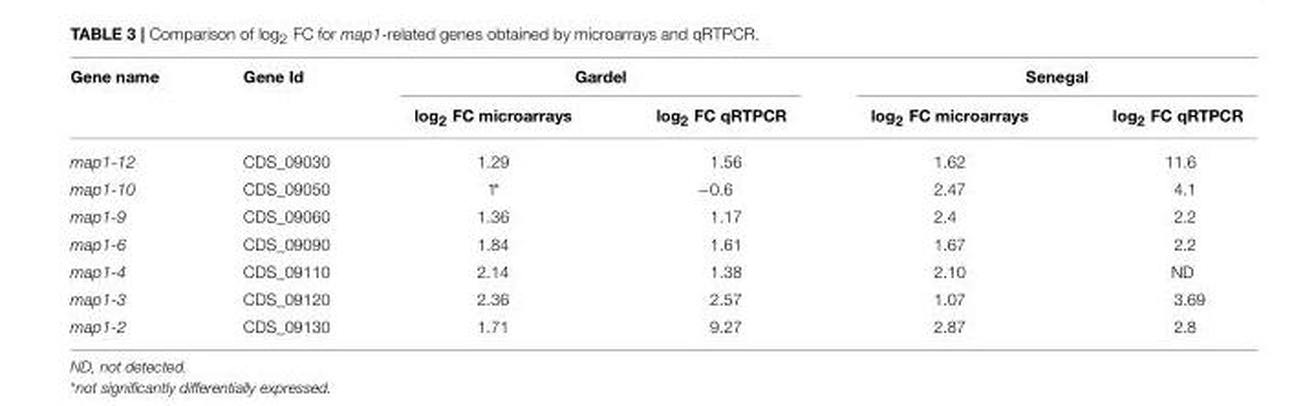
<table><thead><tr><td rowspan="2">Gene name</td><td rowspan="2">Gene Id</td><td colspan="2">Gardel</td><td colspan="2">Senegal</td></tr><tr><td>log<sub>2</sub> FC microarrays</td><td>log<sub>2</sub> FC qRTPCR</td><td>log<sub>2</sub> FC microarrays</td><td>log<sub>2</sub> FC qRTPCR</td></tr></thead><tbody><tr><td>map1-12</td><td>CDS_09030</td><td>1.29</td><td>1.56</td><td>1.62</td><td>11.6</td></tr><tr><td>map1-10</td><td>CDS_09050</td><td>1*</td><td>−0.6</td><td>2.47</td><td>4.1</td></tr><tr><td>map1-9</td><td>CDS_09060</td><td>1.36</td><td>1.17</td><td>2.4</td><td>2.2</td></tr><tr><td>map1-6</td><td>CDS_09090</td><td>1.84</td><td>1.61</td><td>1.67</td><td>2.2</td></tr><tr><td>map1-4</td><td>CDS_09110</td><td>2.14</td><td>1.38</td><td>2.10</td><td>ND</td></tr><tr><td>map1-3</td><td>CDS_09120</td><td>2.36</td><td>2.57</td><td>1.07</td><td>3.69</td></tr><tr><td>map1-2</td><td>CDS_09130</td><td>1.71</td><td>9.27</td><td>2.87</td><td>2.8</td></tr></tbody></table>